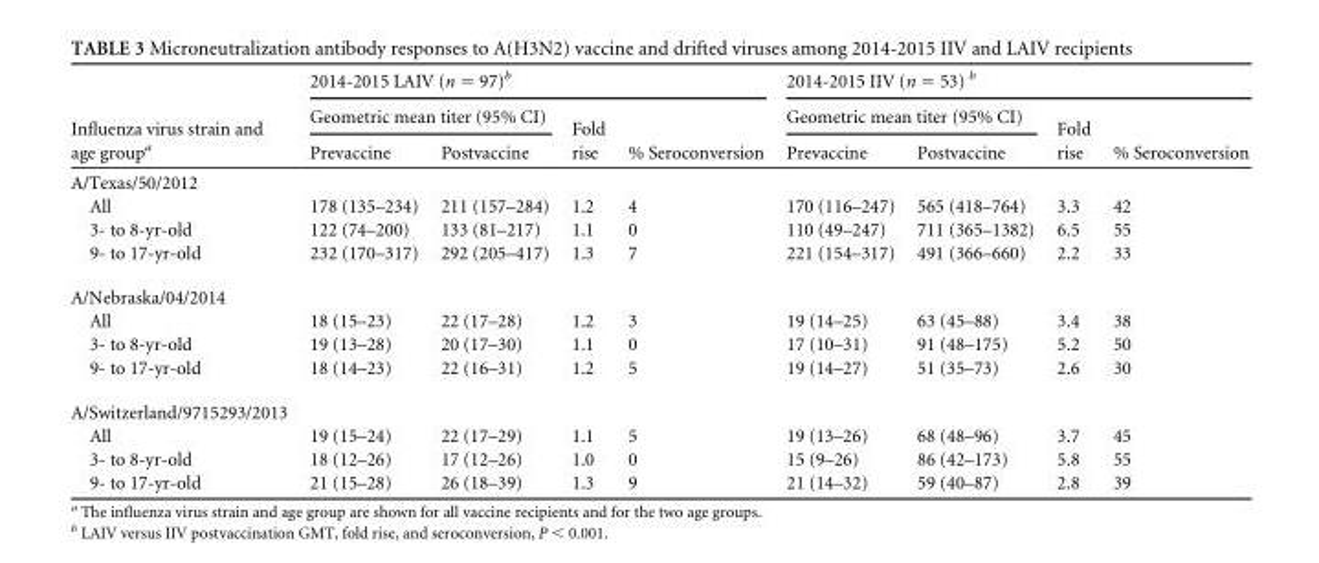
<table><thead><tr><td rowspan="3">Influenza virus strain and age group<sup>a</sup></td><td colspan="4">2014-2015 LAIV (n = 97)<sup>b</sup></td><td colspan="4">2014-2015 IIV (n = 53) <sup>b</sup></td></tr><tr><td colspan="2">Geometric mean titer (95% CI)</td><td rowspan="2">Fold rise</td><td rowspan="2">% Seroconversion</td><td colspan="2">Geometric mean titer (95% CI)</td><td rowspan="2">Fold rise</td><td rowspan="2">% Seroconversion</td></tr><tr><td>Prevaccine</td><td>Postvaccine</td><td>Prevaccine</td><td>Postvaccine</td></tr></thead><tbody><tr><td colspan="9">A/Texas/50/2012</td></tr><tr><td>All</td><td>178 (135–234)</td><td>211 (157–284)</td><td>1.2</td><td>4</td><td>170 (116–247)</td><td>565 (418–764)</td><td>3.3</td><td>42</td></tr><tr><td>3- to 8-yr-old</td><td>122 (74–200)</td><td>133 (81–217)</td><td>1.1</td><td>0</td><td>110 (49–247)</td><td>711 (365–1382)</td><td>6.5</td><td>55</td></tr><tr><td>9- to 17-yr-old</td><td>232 (170–317)</td><td>292 (205–417)</td><td>1.3</td><td>7</td><td>221 (154–317)</td><td>491 (366–660)</td><td>2.2</td><td>33</td></tr><tr><td colspan="9">A/Nebraska/04/2014</td></tr><tr><td>All</td><td>18 (15–23)</td><td>22 (17–28)</td><td>1.2</td><td>3</td><td>19 (14–25)</td><td>63 (45–88)</td><td>3.4</td><td>38</td></tr><tr><td>3- to 8-yr-old</td><td>19 (13–28)</td><td>20 (17–30)</td><td>1.1</td><td>0</td><td>17 (10–31)</td><td>91 (48–175)</td><td>5.2</td><td>50</td></tr><tr><td>9- to 17-yr-old</td><td>18 (14–23)</td><td>22 (16–31)</td><td>1.2</td><td>5</td><td>19 (14–27)</td><td>51 (35–73)</td><td>2.6</td><td>30</td></tr><tr><td colspan="9">A/Switzerland/9715293/2013</td></tr><tr><td>All</td><td>19 (15–24)</td><td>22 (17–29)</td><td>1.1</td><td>5</td><td>19 (13–26)</td><td>68 (48–96)</td><td>3.7</td><td>45</td></tr><tr><td>3- to 8-yr-old</td><td>18 (12–26)</td><td>17 (12–26)</td><td>1.0</td><td>0</td><td>15 (9–26)</td><td>86 (42–173)</td><td>5.8</td><td>55</td></tr><tr><td>9- to 17-yr-old</td><td>21 (15–28)</td><td>26 (18–39)</td><td>1.3</td><td>9</td><td>21 (14–32)</td><td>59 (40–87)</td><td>2.8</td><td>39</td></tr></tbody></table>